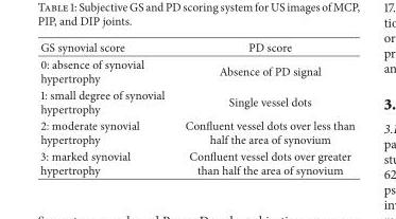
<table><thead><tr><td>GS synovial score</td><td>PD score</td></tr></thead><tbody><tr><td>0: absence of synovial hypertrophy</td><td>Absence of PD signal</td></tr><tr><td>1: small degree of synovial hypertrophy</td><td>Single vessel dots</td></tr><tr><td>2: moderate synovial hypertrophy</td><td>Confluent vessel dots over less than half the area of synovium</td></tr><tr><td>3: marked synovial hypertrophy</td><td>Confluent vessel dots over greater than half the area of synovium</td></tr></tbody></table>